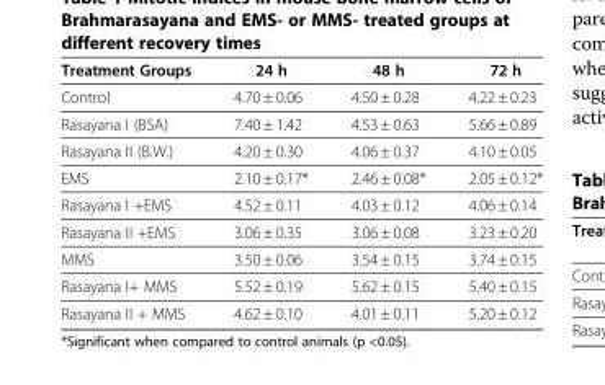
<table><thead><tr><td>Treatment Groups</td><td>24 h</td><td>48 h</td><td>72 h</td></tr></thead><tbody><tr><td>Control</td><td>4.70 ± 0.06</td><td>4.50 ± 0.28</td><td>4.22 ± 0.23</td></tr><tr><td>Rasayana I (BSA)</td><td>7.40 ± 1.42</td><td>4.53 ± 0.63</td><td>5.66 ± 0.89</td></tr><tr><td>Rasayana II (B.W.)</td><td>4.20 ± 0.30</td><td>4.06 ± 0.37</td><td>4.10 ± 0.05</td></tr><tr><td>EMS</td><td>2.10 ± 0.17*</td><td>2.46 ± 0.08*</td><td>2.05 ± 0.12*</td></tr><tr><td>Rasayana I +EMS</td><td>4.52 ± 0.11</td><td>4.03 ± 0.12</td><td>4.06 ± 0.14</td></tr><tr><td>Rasayana II +EMS</td><td>3.06 ± 0.35</td><td>3.06 ± 0.08</td><td>3.23 ± 0.20</td></tr><tr><td>MMS</td><td>3.50 ± 0.06</td><td>3.54 ± 0.15</td><td>3.74 ± 0.15</td></tr><tr><td>Rasayana I+ MMS</td><td>5.52 ± 0.19</td><td>5.62 ± 0.15</td><td>5.40 ± 0.15</td></tr><tr><td>Rasayana II + MMS</td><td>4.62 ± 0.10</td><td>4.01 ± 0.11</td><td>5.20 ± 0.12</td></tr></tbody></table>